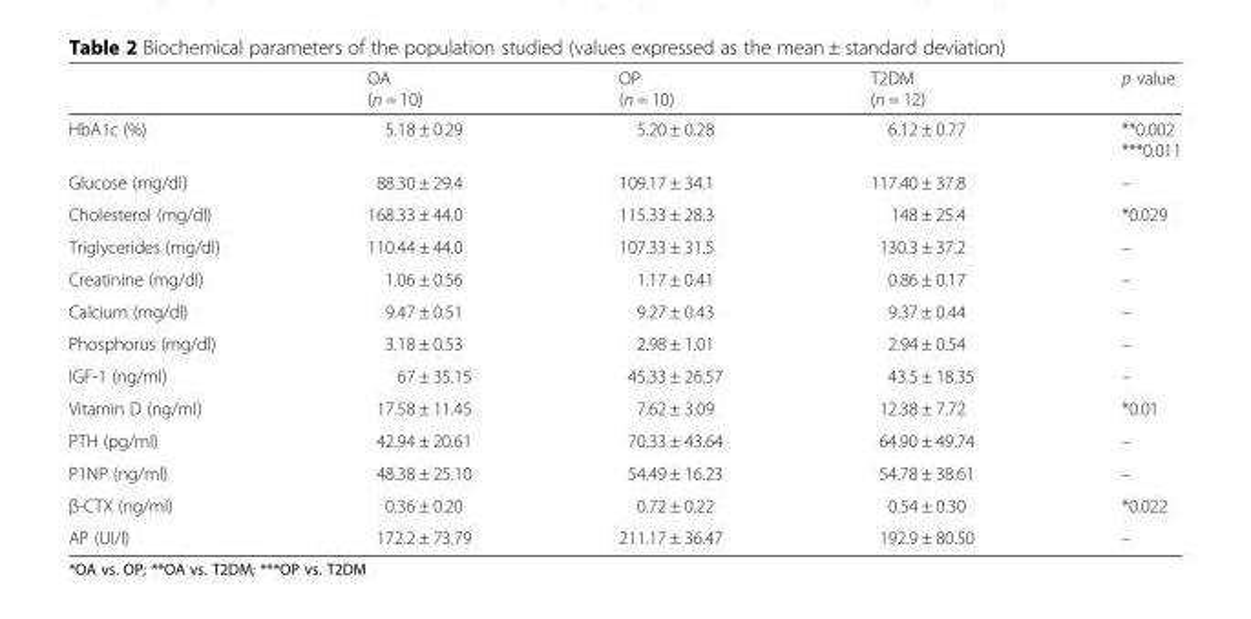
<table><thead><tr><td></td><td>OA (n = 10)</td><td>OP (n = 10)</td><td>T2DM (n = 12)</td><td>p value</td></tr></thead><tbody><tr><td>HbA1c (%)</td><td>5.18 ± 0.29</td><td>5.20 ± 0.28</td><td>6.12 ± 0.77</td><td>**0.002 ***0.011</td></tr><tr><td>Glucose (mg/dl)</td><td>88.30 ± 29.4</td><td>109.17 ± 34.1</td><td>117.40 ± 37.8</td><td>–</td></tr><tr><td>Cholesterol (mg/dl)</td><td>168.33 ± 44.0</td><td>115.33 ± 28.3</td><td>148 ± 25.4</td><td>*0.029</td></tr><tr><td>Triglycerides (mg/dl)</td><td>110.44 ± 44.0</td><td>107.33 ± 31.5</td><td>130.3 ± 37.2</td><td>–</td></tr><tr><td>Creatinine (mg/dl)</td><td>1.06 ± 0.56</td><td>1.17 ± 0.41</td><td>0.86 ± 0.17</td><td>–</td></tr><tr><td>Calcium (mg/dl)</td><td>9.47 ± 0.51</td><td>9.27 ± 0.43</td><td>9.37 ± 0.44</td><td>–</td></tr><tr><td>Phosphorus (mg/dl)</td><td>3.18 ± 0.53</td><td>2.98 ± 1.01</td><td>2.94 ± 0.54</td><td>–</td></tr><tr><td>IGF-1 (ng/ml)</td><td>67 ± 35.15</td><td>45.33 ± 26.57</td><td>43.5 ± 18.35</td><td>–</td></tr><tr><td>Vitamin D (ng/ml)</td><td>17.58 ± 11.45</td><td>7.62 ± 3.09</td><td>12.38 ± 7.72</td><td>*0.01</td></tr><tr><td>PTH (pg/ml)</td><td>42.94 ± 20.61</td><td>70.33 ± 43.64</td><td>64.90 ± 49.74</td><td>–</td></tr><tr><td>P1NP (ng/ml)</td><td>48.38 ± 25.10</td><td>54.49 ± 16.23</td><td>54.78 ± 38.61</td><td>–</td></tr><tr><td>β-CTX (ng/ml)</td><td>0.36 ± 0.20</td><td>0.72 ± 0.22</td><td>0.54 ± 0.30</td><td>*0.022</td></tr><tr><td>AP (UI/l)</td><td>172.2 ± 73.79</td><td>211.17 ± 36.47</td><td>192.9 ± 80.50</td><td>–</td></tr></tbody></table>